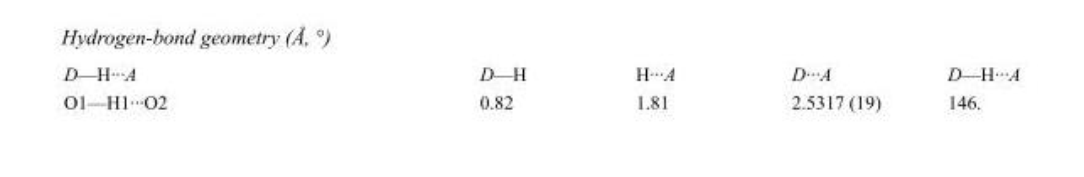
<table><tbody><tr><td>D—H···A</td><td>D—H</td><td>H···A</td><td>D···A</td><td>D—H···A</td></tr><tr><td>O1—H1···O2</td><td>0.82</td><td>1.81</td><td>2.5317 (19)</td><td>146.</td></tr></tbody></table>